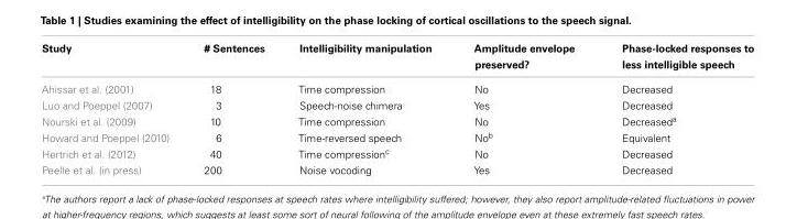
<table><thead><tr><td>Study</td><td># Sentences</td><td>Intelligibility manipulation</td><td>Amplitude envelope preserved?</td><td>Phase-locked responses to less intelligible speech</td></tr></thead><tbody><tr><td>Ahissar et al. (2001)</td><td>18</td><td>Time compression</td><td>No</td><td>Decreased</td></tr><tr><td>Luo and Poeppel (2007)</td><td>3</td><td>Speech-noise chimera</td><td>Yes</td><td>Decreased</td></tr><tr><td>Nourski et al. (2009)</td><td>10</td><td>Time compression</td><td>No</td><td>Decreased<sup>a</sup></td></tr><tr><td>Howard and Poeppel (2010)</td><td>6</td><td>Time-reversed speech</td><td>No<sup>b</sup></td><td>Equivalent</td></tr><tr><td>Hertrich et al. (2012)</td><td>40</td><td>Time compression<sup>c</sup></td><td>No</td><td>Decreased</td></tr><tr><td>Peelle et al. (in press)</td><td>200</td><td>Noise vocoding</td><td>Yes</td><td>Decreased</td></tr></tbody></table>